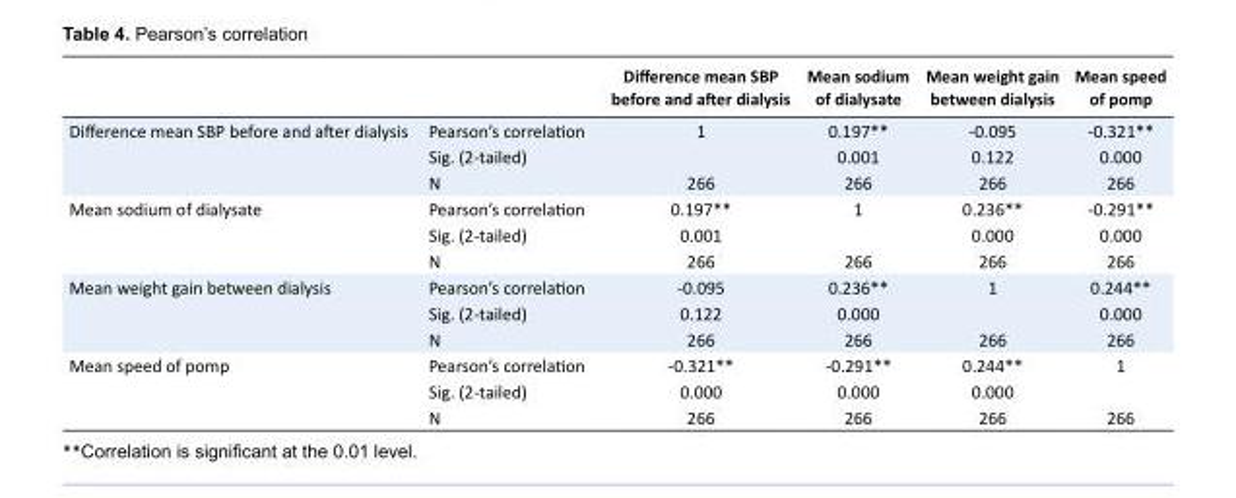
<table><thead><tr><td></td><td></td><td>Difference mean SBP before and after dialysis</td><td>Mean sodium of dialysate</td><td>Mean weight gain between dialysis</td><td>Mean speed of pomp</td></tr></thead><tbody><tr><td rowspan="3">Difference mean SBP before and after dialysis</td><td>Pearson’s correlation</td><td>1</td><td>0.197**</td><td>-0.095</td><td>-0.321**</td></tr><tr><td>Sig. (2-tailed)</td><td></td><td>0.001</td><td>0.122</td><td>0.000</td></tr><tr><td>N</td><td>266</td><td>266</td><td>266</td><td>266</td></tr><tr><td rowspan="3">Mean sodium of dialysate</td><td>Pearson’s correlation</td><td>0.197**</td><td>1</td><td>0.236**</td><td>-0.291**</td></tr><tr><td>Sig. (2-tailed)</td><td>0.001</td><td></td><td>0.000</td><td>0.000</td></tr><tr><td>N</td><td>266</td><td>266</td><td>266</td><td>266</td></tr><tr><td rowspan="3">Mean weight gain between dialysis</td><td>Pearson’s correlation</td><td>-0.095</td><td>0.236**</td><td>1</td><td>0.244**</td></tr><tr><td>Sig. (2-tailed)</td><td>0.122</td><td>0.000</td><td></td><td>0.000</td></tr><tr><td>N</td><td>266</td><td>266</td><td>266</td><td>266</td></tr><tr><td rowspan="3">Mean speed of pomp</td><td>Pearson’s correlation</td><td>-0.321**</td><td>-0.291**</td><td>0.244**</td><td>1</td></tr><tr><td>Sig. (2-tailed)</td><td>0.000</td><td>0.000</td><td>0.000</td><td></td></tr><tr><td>N</td><td>266</td><td>266</td><td>266</td><td>266</td></tr></tbody></table>